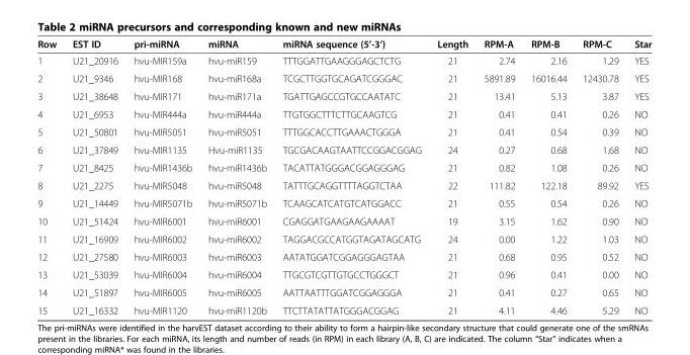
<table><thead><tr><td>Row</td><td>EST ID</td><td>pri-miRNA</td><td>miRNA</td><td>miRNA sequence (5’-3’)</td><td>Length</td><td>RPM-A</td><td>RPM-B</td><td>RPM-C</td><td>Star</td></tr></thead><tbody><tr><td>1</td><td>U21_20916</td><td>hvu-MIR159a</td><td>hvu-miR159</td><td>TTTGGATTGAAGGGAGCTCTG</td><td>21</td><td>2.74</td><td>2.16</td><td>1.29</td><td>YES</td></tr><tr><td>2</td><td>U21_9346</td><td>hvu-MIR168</td><td>hvu-miR168a</td><td>TCGCTTGGTGCAGATCGGGAC</td><td>21</td><td>5891.89</td><td>16016.44</td><td>12430.78</td><td>YES</td></tr><tr><td>3</td><td>U21_38648</td><td>hvu-MIR171</td><td>hvu-miR171a</td><td>TGATTGAGCCGTGCCAATATC</td><td>21</td><td>13.41</td><td>5.13</td><td>3.87</td><td>YES</td></tr><tr><td>4</td><td>U21_6953</td><td>hvu-MIR444a</td><td>hvu-miR444a</td><td>TTGTGGCTTTCTTGCAAGTCG</td><td>21</td><td>0.41</td><td>0.41</td><td>0.26</td><td>NO</td></tr><tr><td>5</td><td>U21_50801</td><td>hvu-MIR5051</td><td>hvu-miR5051</td><td>TTTGGCACCTTGAAACTGGGA</td><td>21</td><td>0.41</td><td>0.54</td><td>0.39</td><td>NO</td></tr><tr><td>6</td><td>U21_37849</td><td>hvu-MIR1135</td><td>Hvu-miR1135</td><td>TGCGACAAGTAATTCCGGACGGAG</td><td>24</td><td>0.27</td><td>0.68</td><td>1.68</td><td>NO</td></tr><tr><td>7</td><td>U21_8425</td><td>hvu-MIR1436b</td><td>hvu-miR1436b</td><td>TACATTATGGGACGGAGGGAG</td><td>21</td><td>0.82</td><td>1.08</td><td>0.26</td><td>NO</td></tr><tr><td>8</td><td>U21_2275</td><td>hvu-MIR5048</td><td>hvu-miR5048</td><td>TATTTGCAGGTTTTAGGTCTAA</td><td>22</td><td>111.82</td><td>122.18</td><td>89.92</td><td>YES</td></tr><tr><td>9</td><td>U21_14449</td><td>hvu-MIR5071b</td><td>hvu-miR5071b</td><td>TCAAGCATCATGTCATGGACC</td><td>21</td><td>0.55</td><td>0.54</td><td>0.26</td><td>NO</td></tr><tr><td>10</td><td>U21_51424</td><td>hvu-MIR6001</td><td>hvu-miR6001</td><td>CGAGGATGAAGAAGAAAAT</td><td>19</td><td>3.15</td><td>1.62</td><td>0.90</td><td>NO</td></tr><tr><td>11</td><td>U21_16909</td><td>hvu-MIR6002</td><td>hvu-miR6002</td><td>TAGGACGCCATGGTAGATAGCATG</td><td>24</td><td>0.00</td><td>1.22</td><td>1.03</td><td>NO</td></tr><tr><td>12</td><td>U21_27580</td><td>hvu-MIR6003</td><td>hvu-miR6003</td><td>AATATGGATCGGAGGGAGTAA</td><td>21</td><td>0.68</td><td>0.95</td><td>0.52</td><td>NO</td></tr><tr><td>13</td><td>U21_53039</td><td>hvu-MIR6004</td><td>hvu-miR6004</td><td>TTGCGTCGTTGTGCCTGGGCT</td><td>21</td><td>0.96</td><td>0.41</td><td>0.00</td><td>NO</td></tr><tr><td>14</td><td>U21_51897</td><td>hvu-MIR6005</td><td>hvu-miR6005</td><td>AATTAATTTGGATCGGAGGGA</td><td>21</td><td>0.41</td><td>0.27</td><td>0.65</td><td>NO</td></tr><tr><td>15</td><td>U21_16332</td><td>hvu-MIR1120</td><td>hvu-miR1120b</td><td>TTCTTATATTATGGGACGGAG</td><td>21</td><td>4.11</td><td>4.46</td><td>5.29</td><td>NO</td></tr></tbody></table>